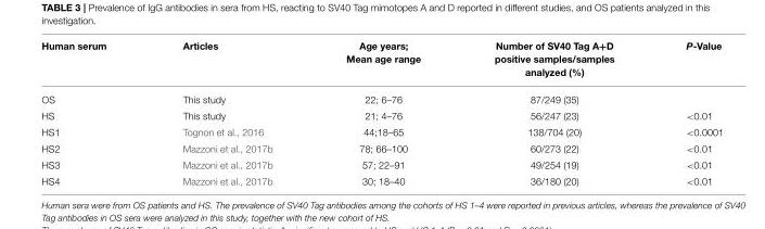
<table><thead><tr><td>Human serum</td><td>Articles</td><td>Age years; Mean age range</td><td>Number of SV40 Tag A+D positive samples/samples analyzed (%)</td><td>P-Value</td></tr></thead><tbody><tr><td>OS</td><td>This study</td><td>22; 6–76</td><td>87/249 (35)</td><td></td></tr><tr><td>HS</td><td>This study</td><td>21; 4–76</td><td>56/247 (23)</td><td>&lt;0.01</td></tr><tr><td>HS1</td><td>Tognon et al., 2016</td><td>44;18–65</td><td>138/704 (20)</td><td>&lt;0.0001</td></tr><tr><td>HS2</td><td>Mazzoni et al., 2017b</td><td>78; 66–100</td><td>60/273 (22)</td><td>&lt;0.01</td></tr><tr><td>HS3</td><td>Mazzoni et al., 2017b</td><td>57; 22–91</td><td>49/254 (19)</td><td>&lt;0.01</td></tr><tr><td>HS4</td><td>Mazzoni et al., 2017b</td><td>30; 18–40</td><td>36/180 (20)</td><td>&lt;0.01</td></tr></tbody></table>